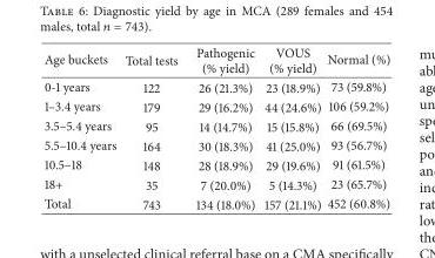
<table><thead><tr><td>Age buckets</td><td>Total tests</td><td>Pathogenic (% yield)</td><td>VOUS (% yield)</td><td>Normal (%)</td></tr></thead><tbody><tr><td>0-1 years</td><td>122</td><td>26 (21.3%)</td><td>23 (18.9%)</td><td>73 (59.8%)</td></tr><tr><td>1–3.4 years</td><td>179</td><td>29 (16.2%)</td><td>44 (24.6%)</td><td>106 (59.2%)</td></tr><tr><td>3.5–5.4 years</td><td>95</td><td>14 (14.7%)</td><td>15 (15.8%)</td><td>66 (69.5%)</td></tr><tr><td>5.5–10.4 years</td><td>164</td><td>30 (18.3%)</td><td>41 (25.0%)</td><td>93 (56.7%)</td></tr><tr><td>10.5–18</td><td>148</td><td>28 (18.9%)</td><td>29 (19.6%)</td><td>91 (61.5%)</td></tr><tr><td>18+</td><td>35</td><td>7 (20.0%)</td><td>5 (14.3%)</td><td>23 (65.7%)</td></tr><tr><td>Total</td><td>743</td><td>134 (18.0%)</td><td>157 (21.1%)</td><td>452 (60.8%)</td></tr></tbody></table>